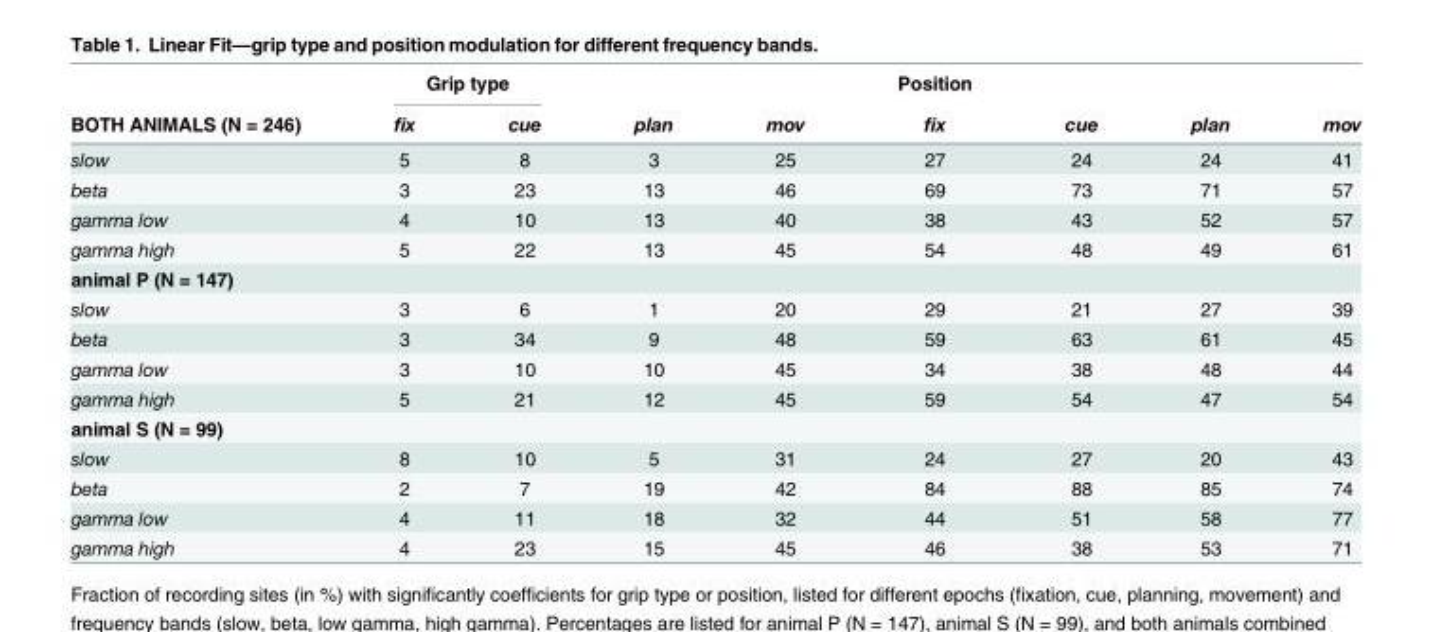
<table><thead><tr><td rowspan="2">BOTH ANIMALS (N = 246)</td><td colspan="2">Grip type</td><td rowspan="2">plan</td><td rowspan="2">mov</td><td rowspan="2">Position fix</td><td rowspan="2">cue</td><td rowspan="2">plan</td><td rowspan="2">mov</td></tr><tr><td>fix</td><td>cue</td></tr></thead><tbody><tr><td>slow</td><td>5</td><td>8</td><td>3</td><td>25</td><td>27</td><td>24</td><td>24</td><td>41</td></tr><tr><td>beta</td><td>3</td><td>23</td><td>13</td><td>46</td><td>69</td><td>73</td><td>71</td><td>57</td></tr><tr><td>gamma low</td><td>4</td><td>10</td><td>13</td><td>40</td><td>38</td><td>43</td><td>52</td><td>57</td></tr><tr><td>gamma high</td><td>5</td><td>22</td><td>13</td><td>45</td><td>54</td><td>48</td><td>49</td><td>61</td></tr><tr><td colspan="9">animal P (N = 147)</td></tr><tr><td>slow</td><td>3</td><td>6</td><td>1</td><td>20</td><td>29</td><td>21</td><td>27</td><td>39</td></tr><tr><td>beta</td><td>3</td><td>34</td><td>9</td><td>48</td><td>59</td><td>63</td><td>61</td><td>45</td></tr><tr><td>gamma low</td><td>3</td><td>10</td><td>10</td><td>45</td><td>34</td><td>38</td><td>48</td><td>44</td></tr><tr><td>gamma high</td><td>5</td><td>21</td><td>12</td><td>45</td><td>59</td><td>54</td><td>47</td><td>54</td></tr><tr><td colspan="9">animal S (N = 99)</td></tr><tr><td>slow</td><td>8</td><td>10</td><td>5</td><td>31</td><td>24</td><td>27</td><td>20</td><td>43</td></tr><tr><td>beta</td><td>2</td><td>7</td><td>19</td><td>42</td><td>84</td><td>88</td><td>85</td><td>74</td></tr><tr><td>gamma low</td><td>4</td><td>11</td><td>18</td><td>32</td><td>44</td><td>51</td><td>58</td><td>77</td></tr><tr><td>gamma high</td><td>4</td><td>23</td><td>15</td><td>45</td><td>46</td><td>38</td><td>53</td><td>71</td></tr></tbody></table>